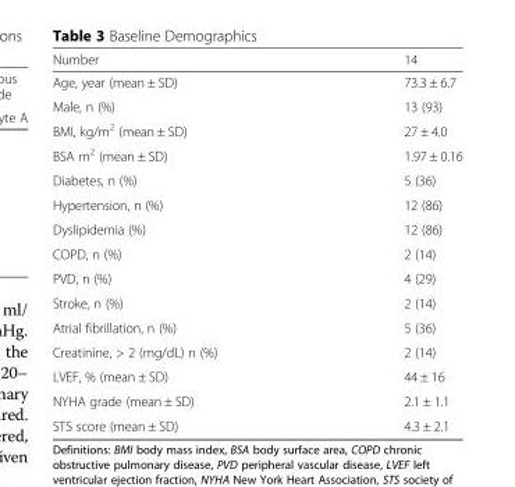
<table><thead><tr><td>Number</td><td>14</td></tr></thead><tbody><tr><td>Age, year (mean ± SD)</td><td>73.3 ± 6.7</td></tr><tr><td>Male, n (%)</td><td>13 (93)</td></tr><tr><td>BMI, kg/m<sup>2</sup> (mean ± SD)</td><td>27 ± 4.0</td></tr><tr><td>BSA m<sup>2</sup> (mean ± SD)</td><td>1.97 ± 0.16</td></tr><tr><td>Diabetes, n (%)</td><td>5 (36)</td></tr><tr><td>Hypertension, n (%)</td><td>12 (86)</td></tr><tr><td>Dyslipidemia (%)</td><td>12 (86)</td></tr><tr><td>COPD, n (%)</td><td>2 (14)</td></tr><tr><td>PVD, n (%)</td><td>4 (29)</td></tr><tr><td>Stroke, n (%)</td><td>2 (14)</td></tr><tr><td>Atrial fibrillation, n (%)</td><td>5 (36)</td></tr><tr><td>Creatinine, &gt; 2 (mg/dL) n (%)</td><td>2 (14)</td></tr><tr><td>LVEF, % (mean ± SD)</td><td>44 ± 16</td></tr><tr><td>NYHA grade (mean ± SD)</td><td>2.1 ± 1.1</td></tr><tr><td>STS score (mean ± SD)</td><td>4.3 ± 2.1</td></tr></tbody></table>